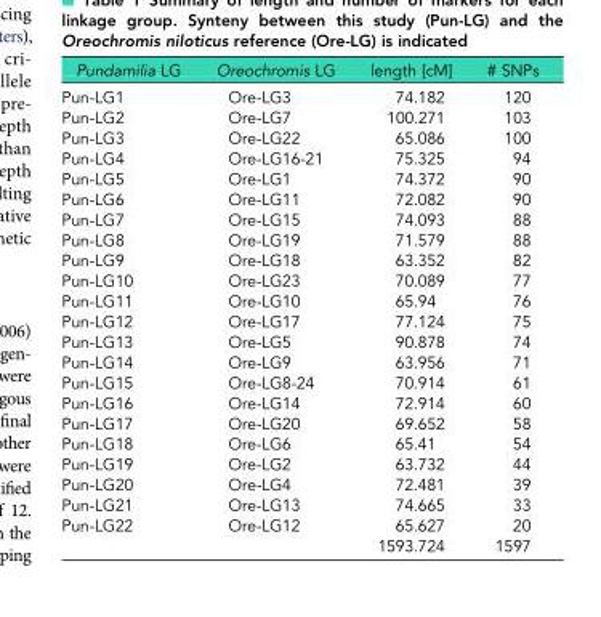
<table><thead><tr><td>Pundamilia LG</td><td>Oreochromis LG</td><td>length [cM]</td><td># SNPs</td></tr></thead><tbody><tr><td>Pun-LG1</td><td>Ore-LG3</td><td>74.182</td><td>120</td></tr><tr><td>Pun-LG2</td><td>Ore-LG7</td><td>100.271</td><td>103</td></tr><tr><td>Pun-LG3</td><td>Ore-LG22</td><td>65.086</td><td>100</td></tr><tr><td>Pun-LG4</td><td>Ore-LG16-21</td><td>75.325</td><td>94</td></tr><tr><td>Pun-LG5</td><td>Ore-LG1</td><td>74.372</td><td>90</td></tr><tr><td>Pun-LG6</td><td>Ore-LG11</td><td>72.082</td><td>90</td></tr><tr><td>Pun-LG7</td><td>Ore-LG15</td><td>74.093</td><td>88</td></tr><tr><td>Pun-LG8</td><td>Ore-LG19</td><td>71.579</td><td>88</td></tr><tr><td>Pun-LG9</td><td>Ore-LG18</td><td>63.352</td><td>82</td></tr><tr><td>Pun-LG10</td><td>Ore-LG23</td><td>70.089</td><td>77</td></tr><tr><td>Pun-LG11</td><td>Ore-LG10</td><td>65.94</td><td>76</td></tr><tr><td>Pun-LG12</td><td>Ore-LG17</td><td>77.124</td><td>75</td></tr><tr><td>Pun-LG13</td><td>Ore-LG5</td><td>90.878</td><td>74</td></tr><tr><td>Pun-LG14</td><td>Ore-LG9</td><td>63.956</td><td>71</td></tr><tr><td>Pun-LG15</td><td>Ore-LG8-24</td><td>70.914</td><td>61</td></tr><tr><td>Pun-LG16</td><td>Ore-LG14</td><td>72.914</td><td>60</td></tr><tr><td>Pun-LG17</td><td>Ore-LG20</td><td>69.652</td><td>58</td></tr><tr><td>Pun-LG18</td><td>Ore-LG6</td><td>65.41</td><td>54</td></tr><tr><td>Pun-LG19</td><td>Ore-LG2</td><td>63.732</td><td>44</td></tr><tr><td>Pun-LG20</td><td>Ore-LG4</td><td>72.481</td><td>39</td></tr><tr><td>Pun-LG21</td><td>Ore-LG13</td><td>74.665</td><td>33</td></tr><tr><td rowspan="2">Pun-LG22</td><td>Ore-LG12</td><td>65.627</td><td>20</td></tr><tr><td></td><td>1593.724</td><td>1597</td></tr></tbody></table>